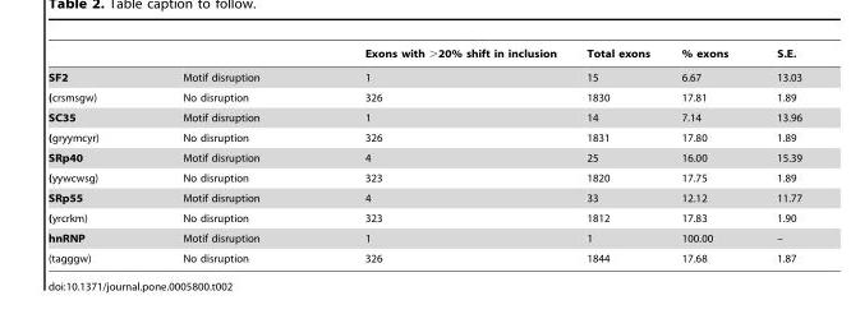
<table><thead><tr><td></td><td></td><td>Exons with &gt;20% shift in inclusion</td><td>Total exons</td><td>% exons</td><td>S.E.</td></tr></thead><tbody><tr><td>SF2</td><td>Motif disruption</td><td>1</td><td>15</td><td>6.67</td><td>13.03</td></tr><tr><td>(crsmsgw)</td><td>No disruption</td><td>326</td><td>1830</td><td>17.81</td><td>1.89</td></tr><tr><td>SC35</td><td>Motif disruption</td><td>1</td><td>14</td><td>7.14</td><td>13.96</td></tr><tr><td>(gryymcyr)</td><td>No disruption</td><td>326</td><td>1831</td><td>17.80</td><td>1.89</td></tr><tr><td>SRp40</td><td>Motif disruption</td><td>4</td><td>25</td><td>16.00</td><td>15.39</td></tr><tr><td>(yywcwsg)</td><td>No disruption</td><td>323</td><td>1820</td><td>17.75</td><td>1.89</td></tr><tr><td>SRp55</td><td>Motif disruption</td><td>4</td><td>33</td><td>12.12</td><td>11.77</td></tr><tr><td>(yrcrkm)</td><td>No disruption</td><td>323</td><td>1812</td><td>17.83</td><td>1.90</td></tr><tr><td>hnRNP</td><td>Motif disruption</td><td>1</td><td>1</td><td>100.00</td><td>–</td></tr><tr><td>(tagggw)</td><td>No disruption</td><td>326</td><td>1844</td><td>17.68</td><td>1.87</td></tr></tbody></table>